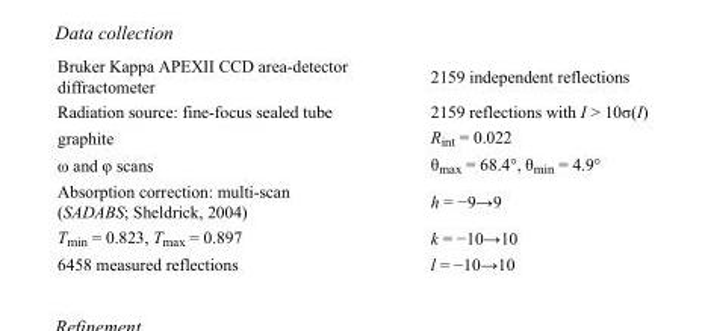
<table><tbody><tr><td>Bruker Kappa APEXII CCD area-detector diffractometer</td><td>2159 independent reflections</td></tr><tr><td>Radiation source: fine-focus sealed tube</td><td>2159 reflections with I &gt; 10σ(I)</td></tr><tr><td>graphite</td><td>R<sub>int</sub> = 0.022</td></tr><tr><td>ω and φ scans</td><td>θ<sub>max</sub> = 68.4°, θ<sub>min</sub> = 4.9°</td></tr><tr><td>Absorption correction: multi-scan (SADABS; Sheldrick, 2004)</td><td>h = −9→9</td></tr><tr><td>T<sub>min</sub> = 0.823, T<sub>max</sub> = 0.897</td><td>k = −10→10</td></tr><tr><td>6458 measured reflections</td><td>l = −10→10</td></tr></tbody></table>